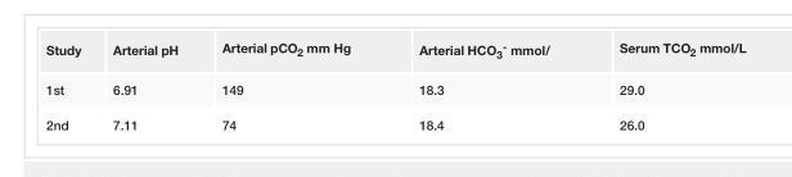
<table><tbody><tr><td>Study</td><td>Arterial pH</td><td>Arterial pCO<sub>2</sub> mm Hg</td><td>Arterial HCO<sub>3</sub><sup>-</sup> mmol/</td><td>Serum TCO<sub>2</sub> mmol/L</td></tr><tr><td>1st</td><td>6.91</td><td>149</td><td>18.3</td><td>29.0</td></tr><tr><td>2nd</td><td>7.11</td><td>74</td><td>18.4</td><td>26.0</td></tr></tbody></table>